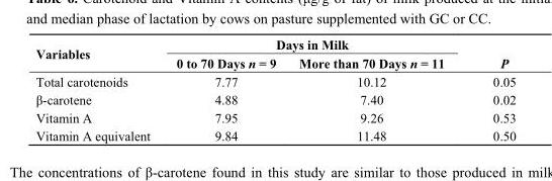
<table><thead><tr><td rowspan="2">Variables</td><td colspan="2">Days in Milk</td><td rowspan="2">P</td></tr><tr><td>0 to 70 Days n = 9</td><td>More than 70 Days n = 11</td></tr></thead><tbody><tr><td>Total carotenoids</td><td>7.77</td><td>10.12</td><td>0.05</td></tr><tr><td>β-carotene</td><td>4.88</td><td>7.40</td><td>0.02</td></tr><tr><td>Vitamin A</td><td>7.95</td><td>9.26</td><td>0.53</td></tr><tr><td>Vitamin A equivalent</td><td>9.84</td><td>11.48</td><td>0.50</td></tr></tbody></table>